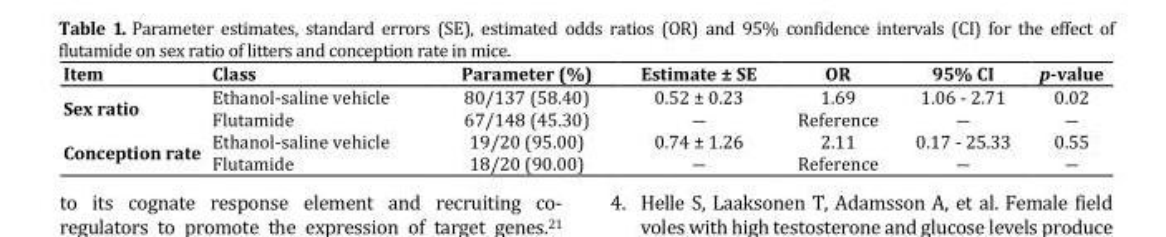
<table><thead><tr><td>Item</td><td>Class</td><td>Parameter (%)</td><td>Estimate ± SE</td><td>OR</td><td>95% CI</td><td>p-value</td></tr></thead><tbody><tr><td rowspan="2">Sex ratio</td><td>Ethanol-saline vehicle</td><td>80/137 (58.40)</td><td>0.52 ± 0.23</td><td>1.69</td><td>1.06 - 2.71</td><td>0.02</td></tr><tr><td>Flutamide</td><td>67/148 (45.30)</td><td>―</td><td>Reference</td><td>―</td><td>―</td></tr><tr><td rowspan="2">Conception rate</td><td>Ethanol-saline vehicle</td><td>19/20 (95.00)</td><td>0.74 ± 1.26</td><td>2.11</td><td>0.17 - 25.33</td><td>0.55</td></tr><tr><td>Flutamide</td><td>18/20 (90.00)</td><td>―</td><td>Reference</td><td>―</td><td>―</td></tr></tbody></table>